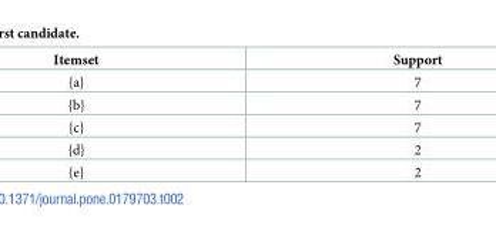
<table><thead><tr><td>Itemset</td><td>Support</td></tr></thead><tbody><tr><td>{a}</td><td>7</td></tr><tr><td>{b}</td><td>7</td></tr><tr><td>{c}</td><td>7</td></tr><tr><td>{d}</td><td>2</td></tr><tr><td>{e}</td><td>2</td></tr></tbody></table>